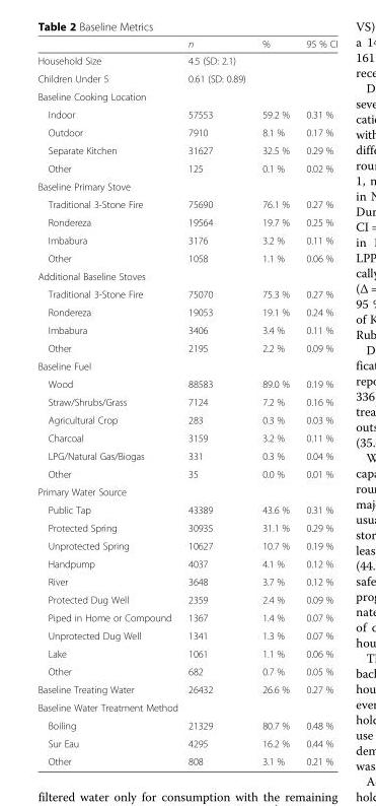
<table><thead><tr><td></td><td>n</td><td>%</td><td>95 % CI</td></tr></thead><tbody><tr><td>Household Size</td><td>4.5 (SD: 2.1)</td><td></td><td></td></tr><tr><td>Children Under 5</td><td>0.61 (SD: 0.89)</td><td></td><td></td></tr><tr><td colspan="4">Baseline Cooking Location</td></tr><tr><td>Indoor</td><td>57553</td><td>59.2 %</td><td>0.31 %</td></tr><tr><td>Outdoor</td><td>7910</td><td>8.1 %</td><td>0.17 %</td></tr><tr><td>Separate Kitchen</td><td>31627</td><td>32.5 %</td><td>0.29 %</td></tr><tr><td>Other</td><td>125</td><td>0.1 %</td><td>0.02 %</td></tr><tr><td colspan="4">Baseline Primary Stove</td></tr><tr><td>Traditional 3-Stone Fire</td><td>75690</td><td>76.1 %</td><td>0.27 %</td></tr><tr><td>Rondereza</td><td>19564</td><td>19.7 %</td><td>0.25 %</td></tr><tr><td>Imbabura</td><td>3176</td><td>3.2 %</td><td>0.11 %</td></tr><tr><td>Other</td><td>1058</td><td>1.1 %</td><td>0.06 %</td></tr><tr><td colspan="4">Additional Baseline Stoves</td></tr><tr><td>Traditional 3-Stone Fire</td><td>75070</td><td>75.3 %</td><td>0.27 %</td></tr><tr><td>Rondereza</td><td>19053</td><td>19.1 %</td><td>0.24 %</td></tr><tr><td>Imbabura</td><td>3406</td><td>3.4 %</td><td>0.11 %</td></tr><tr><td>Other</td><td>2195</td><td>2.2 %</td><td>0.09 %</td></tr><tr><td colspan="4">Baseline Fuel</td></tr><tr><td>Wood</td><td>88583</td><td>89.0 %</td><td>0.19 %</td></tr><tr><td>Straw/Shrubs/Grass</td><td>7124</td><td>7.2 %</td><td>0.16 %</td></tr><tr><td>Agricultural Crop</td><td>283</td><td>0.3 %</td><td>0.03 %</td></tr><tr><td>Charcoal</td><td>3159</td><td>3.2 %</td><td>0.11 %</td></tr><tr><td>LPG/Natural Gas/Biogas</td><td>331</td><td>0.3 %</td><td>0.04 %</td></tr><tr><td>Other</td><td>35</td><td>0.0 %</td><td>0.01 %</td></tr><tr><td colspan="4">Primary Water Source</td></tr><tr><td>Public Tap</td><td>43389</td><td>43.6 %</td><td>0.31 %</td></tr><tr><td>Protected Spring</td><td>30935</td><td>31.1 %</td><td>0.29 %</td></tr><tr><td>Unprotected Spring</td><td>10627</td><td>10.7 %</td><td>0.19 %</td></tr><tr><td>Handpump</td><td>4037</td><td>4.1 %</td><td>0.12 %</td></tr><tr><td>River</td><td>3648</td><td>3.7 %</td><td>0.12 %</td></tr><tr><td>Protected Dug Well</td><td>2359</td><td>2.4 %</td><td>0.09 %</td></tr><tr><td>Piped in Home or Compound</td><td>1367</td><td>1.4 %</td><td>0.07 %</td></tr><tr><td>Unprotected Dug Well</td><td>1341</td><td>1.3 %</td><td>0.07 %</td></tr><tr><td>Lake</td><td>1061</td><td>1.1 %</td><td>0.06 %</td></tr><tr><td>Other</td><td>682</td><td>0.7 %</td><td>0.05 %</td></tr><tr><td>Baseline Treating Water</td><td>26432</td><td>26.6 %</td><td>0.27 %</td></tr><tr><td colspan="4">Baseline Water Treatment Method</td></tr><tr><td>Boiling</td><td>21329</td><td>80.7 %</td><td>0.48 %</td></tr><tr><td>Sur Eau</td><td>4295</td><td>16.2 %</td><td>0.44 %</td></tr><tr><td>Other</td><td>808</td><td>3.1 %</td><td>0.21 %</td></tr></tbody></table>